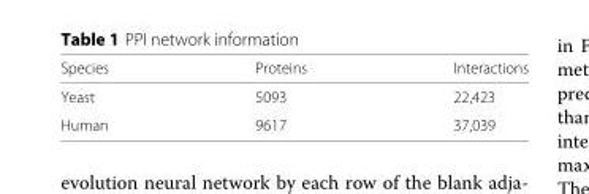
<table><thead><tr><td>Species</td><td>Proteins</td><td>Interactions</td></tr></thead><tbody><tr><td>Yeast</td><td>5093</td><td>22,423</td></tr><tr><td>Human</td><td>9617</td><td>37,039</td></tr></tbody></table>